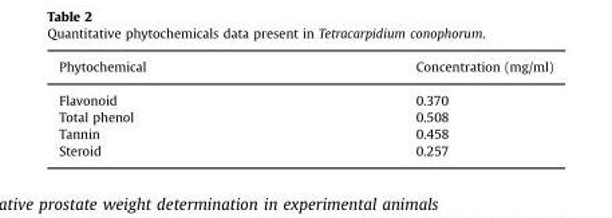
<table><thead><tr><td>Phytochemical</td><td>Concentration (mg/ml)</td></tr></thead><tbody><tr><td>Flavonoid</td><td>0.370</td></tr><tr><td>Total phenol</td><td>0.508</td></tr><tr><td>Tannin</td><td>0.458</td></tr><tr><td>Steroid</td><td>0.257</td></tr></tbody></table>